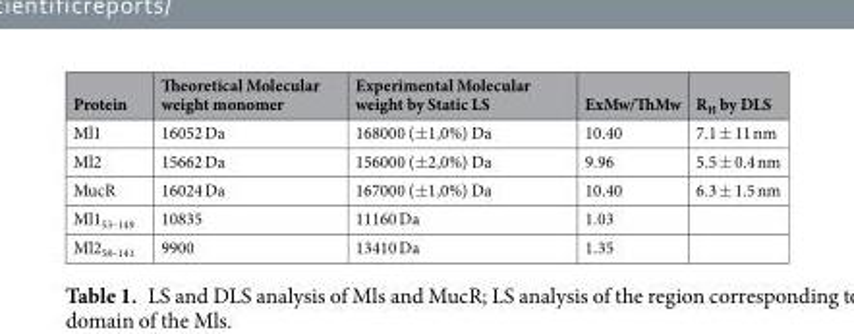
<table><thead><tr><td>Protein</td><td>Theoretical Molecular weight monomer</td><td>Experimental Molecular weight by Static LS</td><td>ExMw/ThMw</td><td>R<sub>H</sub> by DLS</td></tr></thead><tbody><tr><td>Ml1</td><td>16052 Da</td><td>168000 (±1,0%) Da</td><td>10.40</td><td>7.1 ± 11 nm</td></tr><tr><td>Ml2</td><td>15662 Da</td><td>156000 (±2,0%) Da</td><td>9.96</td><td>5.5 ± 0.4 nm</td></tr><tr><td>MucR</td><td>16024 Da</td><td>167000 (±1,0%) Da</td><td>10.40</td><td>6.3 ± 1.5 nm</td></tr><tr><td>Ml1<sub>53–149</sub></td><td>10835</td><td>11160 Da</td><td>1.03</td><td></td></tr><tr><td>Ml2<sub>58–141</sub></td><td>9900</td><td>13410 Da</td><td>1.35</td><td></td></tr></tbody></table>